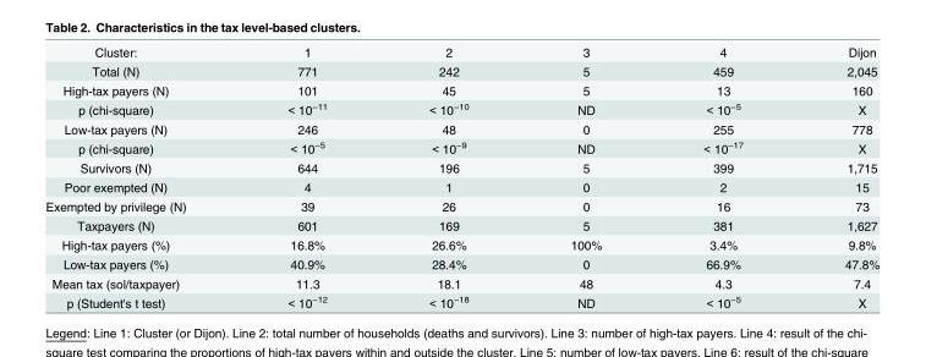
<table><tbody><tr><td>Cluster:</td><td>1</td><td>2</td><td>3</td><td>4</td><td>Dijon</td></tr><tr><td>Total (N)</td><td>771</td><td>242</td><td>5</td><td>459</td><td>2,045</td></tr><tr><td>High-tax payers (N)</td><td>101</td><td>45</td><td>5</td><td>13</td><td>160</td></tr><tr><td>p (chi-square)</td><td>&lt; 10<sup>−11</sup></td><td>&lt; 10<sup>−10</sup></td><td>ND</td><td>&lt; 10<sup>−5</sup></td><td>X</td></tr><tr><td>Low-tax payers (N)</td><td>246</td><td>48</td><td>0</td><td>255</td><td>778</td></tr><tr><td>p (chi-square)</td><td>&lt; 10<sup>−5</sup></td><td>&lt; 10<sup>−9</sup></td><td>ND</td><td>&lt; 10<sup>−17</sup></td><td>X</td></tr><tr><td>Survivors (N)</td><td>644</td><td>196</td><td>5</td><td>399</td><td>1,715</td></tr><tr><td>Poor exempted (N)</td><td>4</td><td>1</td><td>0</td><td>2</td><td>15</td></tr><tr><td>Exempted by privilege (N)</td><td>39</td><td>26</td><td>0</td><td>16</td><td>73</td></tr><tr><td>Taxpayers (N)</td><td>601</td><td>169</td><td>5</td><td>381</td><td>1,627</td></tr><tr><td>High-tax payers (%)</td><td>16.8%</td><td>26.6%</td><td>100%</td><td>3.4%</td><td>9.8%</td></tr><tr><td>Low-tax payers (%)</td><td>40.9%</td><td>28.4%</td><td>0</td><td>66.9%</td><td>47.8%</td></tr><tr><td>Mean tax (sol/taxpayer)</td><td>11.3</td><td>18.1</td><td>48</td><td>4.3</td><td>7.4</td></tr><tr><td>p (Student&#x27;s t test)</td><td>&lt; 10<sup>−12</sup></td><td>&lt; 10<sup>−18</sup></td><td>ND</td><td>&lt; 10<sup>−5</sup></td><td>X</td></tr></tbody></table>